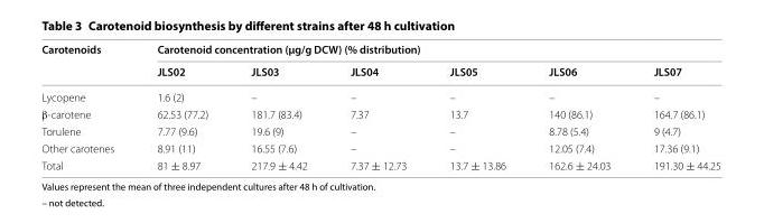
<table><thead><tr><td rowspan="2">Carotenoids</td><td colspan="6">Carotenoid concentration (µg/g DCW) (% distribution)</td></tr><tr><td>JLS02</td><td>JLS03</td><td>JLS04</td><td>JLS05</td><td>JLS06</td><td>JLS07</td></tr></thead><tbody><tr><td>Lycopene</td><td>1.6 (2)</td><td>–</td><td>–</td><td>–</td><td>–</td><td>–</td></tr><tr><td>β‑carotene</td><td>62.53 (77.2)</td><td>181.7 (83.4)</td><td>7.37</td><td>13.7</td><td>140 (86.1)</td><td>164.7 (86.1)</td></tr><tr><td>Torulene</td><td>7.77 (9.6)</td><td>19.6 (9)</td><td>–</td><td>–</td><td>8.78 (5.4)</td><td>9 (4.7)</td></tr><tr><td>Other carotenes</td><td>8.91 (11)</td><td>16.55 (7.6)</td><td>–</td><td>–</td><td>12.05 (7.4)</td><td>17.36 (9.1)</td></tr><tr><td>Total</td><td>81 ± 8.97</td><td>217.9 ± 4.42</td><td>7.37 ± 12.73</td><td>13.7 ± 13.86</td><td>162.6 ± 24.03</td><td>191.30 ± 44.25</td></tr></tbody></table>